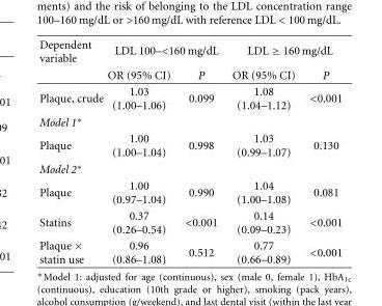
<table><thead><tr><td rowspan="2">Dependent variable</td><td colspan="2">LDL 100–&lt;160 mg/dL</td><td colspan="2">LDL ≥ 160 mg/dL</td></tr><tr><td>OR (95% CI)</td><td>P</td><td>OR (95% CI)</td><td>P</td></tr></thead><tbody><tr><td>Plaque, crude</td><td>1.03 (1.00–1.06)</td><td>0.099</td><td>1.08 (1.04–1.12)</td><td>&lt;0.001</td></tr><tr><td colspan="5">Model 1∗</td></tr><tr><td>Plaque</td><td>1.00 (1.00–1.04)</td><td>0.998</td><td>1.03 (0.99–1.07)</td><td>0.130</td></tr><tr><td colspan="5">Model 2∗</td></tr><tr><td>Plaque</td><td>1.00 (0.97–1.04)</td><td>0.990</td><td>1.04 (1.00–1.08)</td><td>0.081</td></tr><tr><td>Statins</td><td>0.37 (0.26–0.54)</td><td>&lt;0.001</td><td>0.14 (0.09–0.23)</td><td>&lt;0.001</td></tr><tr><td>Plaque × statin use</td><td>0.96 (0.86–1.08)</td><td>0.512</td><td>0.77 (0.66–0.89)</td><td>&lt;0.001</td></tr></tbody></table>